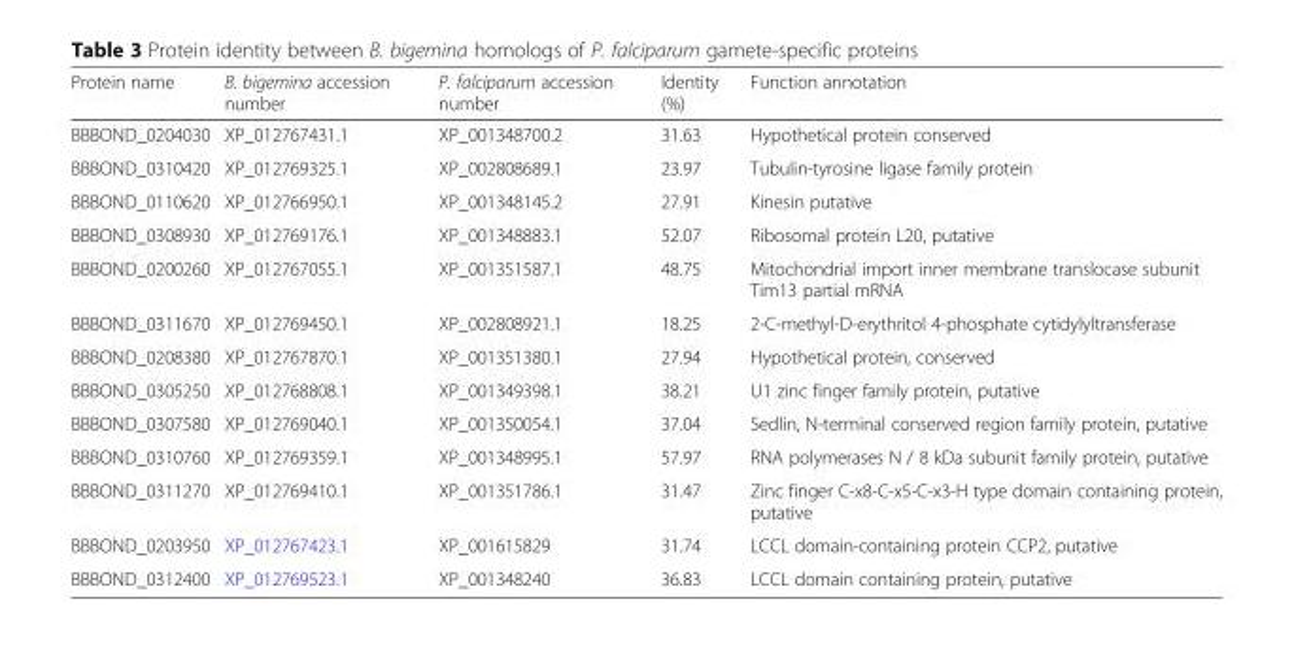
<table><thead><tr><td>Protein name</td><td>B. bigemina accession number</td><td>P. falciparum accession number</td><td>Identity (%)</td><td>Function annotation</td></tr></thead><tbody><tr><td>BBBOND_0204030</td><td>XP_012767431.1</td><td>XP_001348700.2</td><td>31.63</td><td>Hypothetical protein conserved</td></tr><tr><td>BBBOND_0310420</td><td>XP_012769325.1</td><td>XP_002808689.1</td><td>23.97</td><td>Tubulin-tyrosine ligase family protein</td></tr><tr><td>BBBOND_0110620</td><td>XP_012766950.1</td><td>XP_001348145.2</td><td>27.91</td><td>Kinesin putative</td></tr><tr><td>BBBOND_0308930</td><td>XP_012769176.1</td><td>XP_001348883.1</td><td>52.07</td><td>Ribosomal protein L20, putative</td></tr><tr><td>BBBOND_0200260</td><td>XP_012767055.1</td><td>XP_001351587.1</td><td>48.75</td><td>Mitochondrial import inner membrane translocase subunit Tim13 partial mRNA</td></tr><tr><td>BBBOND_0311670</td><td>XP_012769450.1</td><td>XP_002808921.1</td><td>18.25</td><td>2-C-methyl-D-erythritol 4-phosphate cytidylyltransferase</td></tr><tr><td>BBBOND_0208380</td><td>XP_012767870.1</td><td>XP_001351380.1</td><td>27.94</td><td>Hypothetical protein, conserved</td></tr><tr><td>BBBOND_0305250</td><td>XP_012768808.1</td><td>XP_001349398.1</td><td>38.21</td><td>U1 zinc finger family protein, putative</td></tr><tr><td>BBBOND_0307580</td><td>XP_012769040.1</td><td>XP_001350054.1</td><td>37.04</td><td>Sedlin, N-terminal conserved region family protein, putative</td></tr><tr><td>BBBOND_0310760</td><td>XP_012769359.1</td><td>XP_001348995.1</td><td>57.97</td><td>RNA polymerases N / 8 kDa subunit family protein, putative</td></tr><tr><td>BBBOND_0311270</td><td>XP_012769410.1</td><td>XP_001351786.1</td><td>31.47</td><td>Zinc finger C-x8-C-x5-C-x3-H type domain containing protein, putative</td></tr><tr><td>BBBOND_0203950</td><td>XP_012767423.1</td><td>XP_001615829</td><td>31.74</td><td>LCCL domain-containing protein CCP2, putative</td></tr><tr><td>BBBOND_0312400</td><td>XP_012769523.1</td><td>XP_001348240</td><td>36.83</td><td>LCCL domain containing protein, putative</td></tr></tbody></table>